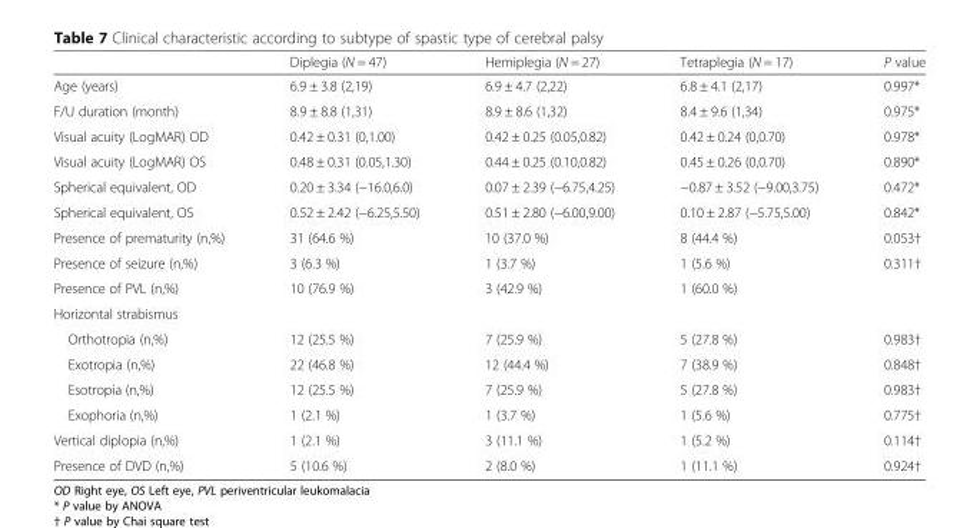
<table><thead><tr><td></td><td>Diplegia (N = 47)</td><td>Hemiplegia (N = 27)</td><td>Tetraplegia (N = 17)</td><td>P value</td></tr></thead><tbody><tr><td>Age (years)</td><td>6.9 ± 3.8 (2,19)</td><td>6.9 ± 4.7 (2,22)</td><td>6.8 ± 4.1 (2,17)</td><td>0.997*</td></tr><tr><td>F/U duration (month)</td><td>8.9 ± 8.8 (1,31)</td><td>8.9 ± 8.6 (1,32)</td><td>8.4 ± 9.6 (1,34)</td><td>0.975*</td></tr><tr><td>Visual acuity (LogMAR) OD</td><td>0.42 ± 0.31 (0,1.00)</td><td>0.42 ± 0.25 (0.05,0.82)</td><td>0.42 ± 0.24 (0,0.70)</td><td>0.978*</td></tr><tr><td>Visual acuity (LogMAR) OS</td><td>0.48 ± 0.31 (0.05,1.30)</td><td>0.44 ± 0.25 (0.10,0.82)</td><td>0.45 ± 0.26 (0,0.70)</td><td>0.890*</td></tr><tr><td>Spherical equivalent, OD</td><td>0.20 ± 3.34 (−16.0,6.0)</td><td>0.07 ± 2.39 (−6.75,4.25)</td><td>−0.87 ± 3.52 (−9.00,3.75)</td><td>0.472*</td></tr><tr><td>Spherical equivalent, OS</td><td>0.52 ± 2.42 (−6.25,5.50)</td><td>0.51 ± 2.80 (−6.00,9.00)</td><td>0.10 ± 2.87 (−5.75,5.00)</td><td>0.842*</td></tr><tr><td>Presence of prematurity (n,%)</td><td>31 (64.6 %)</td><td>10 (37.0 %)</td><td>8 (44.4 %)</td><td>0.053†</td></tr><tr><td>Presence of seizure (n,%)</td><td>3 (6.3 %)</td><td>1 (3.7 %)</td><td>1 (5.6 %)</td><td>0.311†</td></tr><tr><td>Presence of PVL (n,%)</td><td>10 (76.9 %)</td><td>3 (42.9 %)</td><td>1 (60.0 %)</td><td></td></tr><tr><td colspan="5">Horizontal strabismus</td></tr><tr><td>Orthotropia (n,%)</td><td>12 (25.5 %)</td><td>7 (25.9 %)</td><td>5 (27.8 %)</td><td>0.983†</td></tr><tr><td>Exotropia (n,%)</td><td>22 (46.8 %)</td><td>12 (44.4 %)</td><td>7 (38.9 %)</td><td>0.848†</td></tr><tr><td>Esotropia (n,%)</td><td>12 (25.5 %)</td><td>7 (25.9 %)</td><td>5 (27.8 %)</td><td>0.983†</td></tr><tr><td>Exophoria (n,%)</td><td>1 (2.1 %)</td><td>1 (3.7 %)</td><td>1 (5.6 %)</td><td>0.775†</td></tr><tr><td>Vertical diplopia (n,%)</td><td>1 (2.1 %)</td><td>3 (11.1 %)</td><td>1 (5.2 %)</td><td>0.114†</td></tr><tr><td>Presence of DVD (n,%)</td><td>5 (10.6 %)</td><td>2 (8.0 %)</td><td>1 (11.1 %)</td><td>0.924†</td></tr></tbody></table>